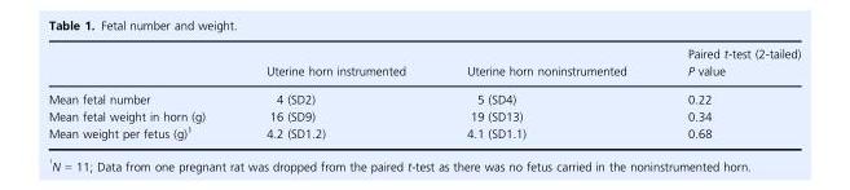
<table><thead><tr><td></td><td>Uterine horn instrumented</td><td>Uterine horn noninstrumented</td><td>Paired t-test (2-tailed) P value</td></tr></thead><tbody><tr><td>Mean fetal number</td><td>4 (SD2)</td><td>5 (SD4)</td><td>0.22</td></tr><tr><td>Mean fetal weight in horn (g)</td><td>16 (SD9)</td><td>19 (SD13)</td><td>0.34</td></tr><tr><td>Mean weight per fetus (g)<sup>1</sup></td><td>4.2 (SD1.2)</td><td>4.1 (SD1.1)</td><td>0.68</td></tr></tbody></table>